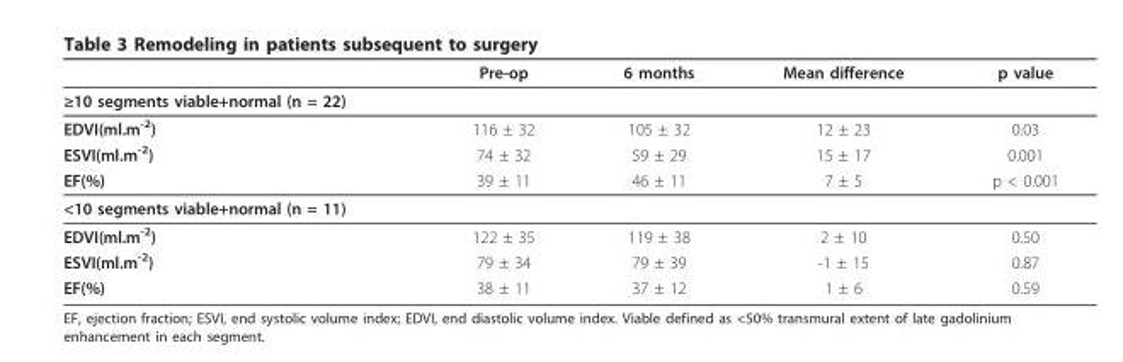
<table><thead><tr><td></td><td>Pre-op</td><td>6 months</td><td>Mean difference</td><td>p value</td></tr></thead><tbody><tr><td colspan="5">≥10 segments viable+normal (n = 22)</td></tr><tr><td>EDVI(ml.m<sup>-2</sup>)</td><td>116 ± 32</td><td>105 ± 32</td><td>12 ± 23</td><td>0.03</td></tr><tr><td>ESVI(ml.m<sup>-2</sup>)</td><td>74 ± 32</td><td>59 ± 29</td><td>15 ± 17</td><td>0.001</td></tr><tr><td>EF(%)</td><td>39 ± 11</td><td>46 ± 11</td><td>7 ± 5</td><td>p &lt; 0.001</td></tr><tr><td colspan="5">&lt;10 segments viable+normal (n = 11)</td></tr><tr><td>EDVI(ml.m<sup>-2</sup>)</td><td>122 ± 35</td><td>119 ± 38</td><td>2 ± 10</td><td>0.50</td></tr><tr><td>ESVI(ml.m<sup>-2</sup>)</td><td>79 ± 34</td><td>79 ± 39</td><td>-1 ± 15</td><td>0.87</td></tr><tr><td>EF(%)</td><td>38 ± 11</td><td>37 ± 12</td><td>1 ± 6</td><td>0.59</td></tr></tbody></table>